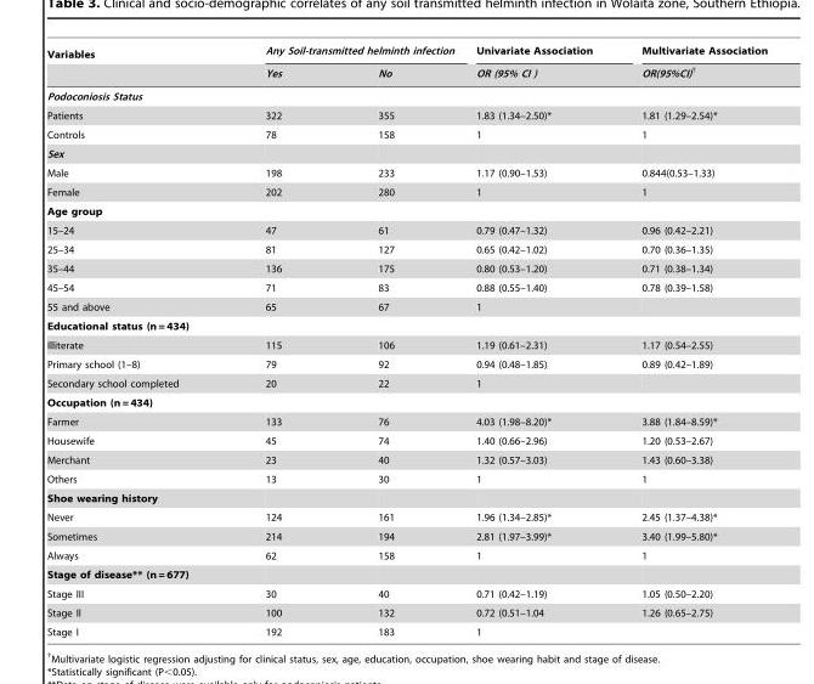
<table><thead><tr><td rowspan="2">Variables</td><td colspan="2">Any Soil-transmitted helminth infection</td><td rowspan="2">Univariate Association OR (95% CI )</td><td rowspan="2">Multivariate Association OR(95%CI)†</td></tr><tr><td>Yes</td><td>No</td></tr></thead><tbody><tr><td colspan="5">Podoconiosis Status</td></tr><tr><td>Patients</td><td>322</td><td>355</td><td>1.83 (1.34–2.50)*</td><td>1.81 (1.29–2.54)*</td></tr><tr><td>Controls</td><td>78</td><td>158</td><td>1</td><td>1</td></tr><tr><td colspan="5">Sex</td></tr><tr><td>Male</td><td>198</td><td>233</td><td>1.17 (0.90–1.53)</td><td>0.844(0.53–1.33)</td></tr><tr><td>Female</td><td>202</td><td>280</td><td>1</td><td>1</td></tr><tr><td colspan="5">Age group</td></tr><tr><td>15–24</td><td>47</td><td>61</td><td>0.79 (0.47–1.32)</td><td>0.96 (0.42–2.21)</td></tr><tr><td>25–34</td><td>81</td><td>127</td><td>0.65 (0.42–1.02)</td><td>0.70 (0.36–1.35)</td></tr><tr><td>35–44</td><td>136</td><td>175</td><td>0.80 (0.53–1.20)</td><td>0.71 (0.38–1.34)</td></tr><tr><td>45–54</td><td>71</td><td>83</td><td>0.88 (0.55–1.40)</td><td>0.78 (0.39–1.58)</td></tr><tr><td>55 and above</td><td>65</td><td>67</td><td>1</td><td></td></tr><tr><td colspan="5">Educational status (n = 434)</td></tr><tr><td>Illiterate</td><td>115</td><td>106</td><td>1.19 (0.61–2.31)</td><td>1.17 (0.54–2.55)</td></tr><tr><td>Primary school (1–8)</td><td>79</td><td>92</td><td>0.94 (0.48–1.85)</td><td>0.89 (0.42–1.89)</td></tr><tr><td>Secondary school completed</td><td>20</td><td>22</td><td>1</td><td></td></tr><tr><td colspan="5">Occupation (n = 434)</td></tr><tr><td>Farmer</td><td>133</td><td>76</td><td>4.03 (1.98–8.20)*</td><td>3.88 (1.84–8.59)*</td></tr><tr><td>Housewife</td><td>45</td><td>74</td><td>1.40 (0.66–2.96)</td><td>1.20 (0.53–2.67)</td></tr><tr><td>Merchant</td><td>23</td><td>40</td><td>1.32 (0.57–3.03)</td><td>1.43 (0.60–3.38)</td></tr><tr><td>Others</td><td>13</td><td>30</td><td>1</td><td>1</td></tr><tr><td colspan="5">Shoe wearing history</td></tr><tr><td>Never</td><td>124</td><td>161</td><td>1.96 (1.34–2.85)*</td><td>2.45 (1.37–4.38)*</td></tr><tr><td>Sometimes</td><td>214</td><td>194</td><td>2.81 (1.97–3.99)*</td><td>3.40 (1.99–5.80)*</td></tr><tr><td>Always</td><td>62</td><td>158</td><td>1</td><td>1</td></tr><tr><td colspan="5">Stage of disease** (n = 677)</td></tr><tr><td>Stage III</td><td>30</td><td>40</td><td>0.71 (0.42–1.19)</td><td>1.05 (0.50–2.20)</td></tr><tr><td>Stage II</td><td>100</td><td>132</td><td>0.72 (0.51–1.04</td><td>1.26 (0.65–2.75)</td></tr><tr><td>Stage I</td><td>192</td><td>183</td><td>1</td><td></td></tr></tbody></table>